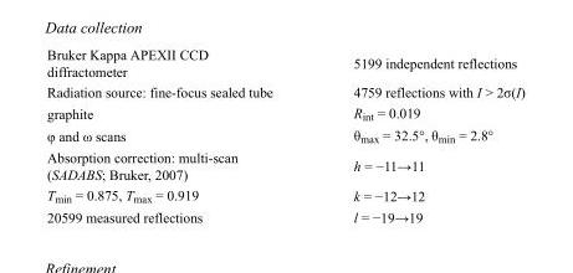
<table><tbody><tr><td>Bruker Kappa APEXII CCD diffractometer</td><td>5199 independent reflections</td></tr><tr><td>Radiation source: fine-focus sealed tube</td><td>4759 reflections with I &gt; 2σ(I)</td></tr><tr><td>graphite</td><td>R<sub>int</sub> = 0.019</td></tr><tr><td>φ and ω scans</td><td>θ<sub>max</sub> = 32.5°, θ<sub>min</sub> = 2.8°</td></tr><tr><td>Absorption correction: multi-scan (SADABS; Bruker, 2007)</td><td>h = −11→11</td></tr><tr><td>T<sub>min</sub> = 0.875, T<sub>max</sub> = 0.919</td><td>k = −12→12</td></tr><tr><td>20599 measured reflections</td><td>l = −19→19</td></tr></tbody></table>